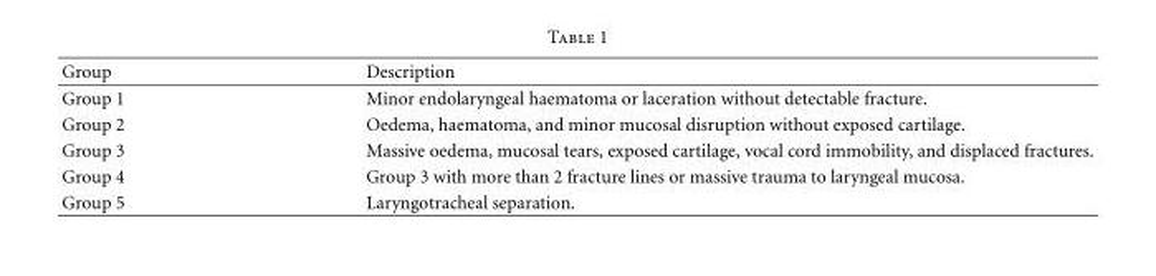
<table><thead><tr><td>Group</td><td>Description</td></tr></thead><tbody><tr><td>Group 1</td><td>Minor endolaryngeal haematoma or laceration without detectable fracture.</td></tr><tr><td>Group 2</td><td>Oedema, haematoma, and minor mucosal disruption without exposed cartilage.</td></tr><tr><td>Group 3</td><td>Massive oedema, mucosal tears, exposed cartilage, vocal cord immobility, and displaced fractures.</td></tr><tr><td>Group 4</td><td>Group 3 with more than 2 fracture lines or massive trauma to laryngeal mucosa.</td></tr><tr><td>Group 5</td><td>Laryngotracheal separation.</td></tr></tbody></table>